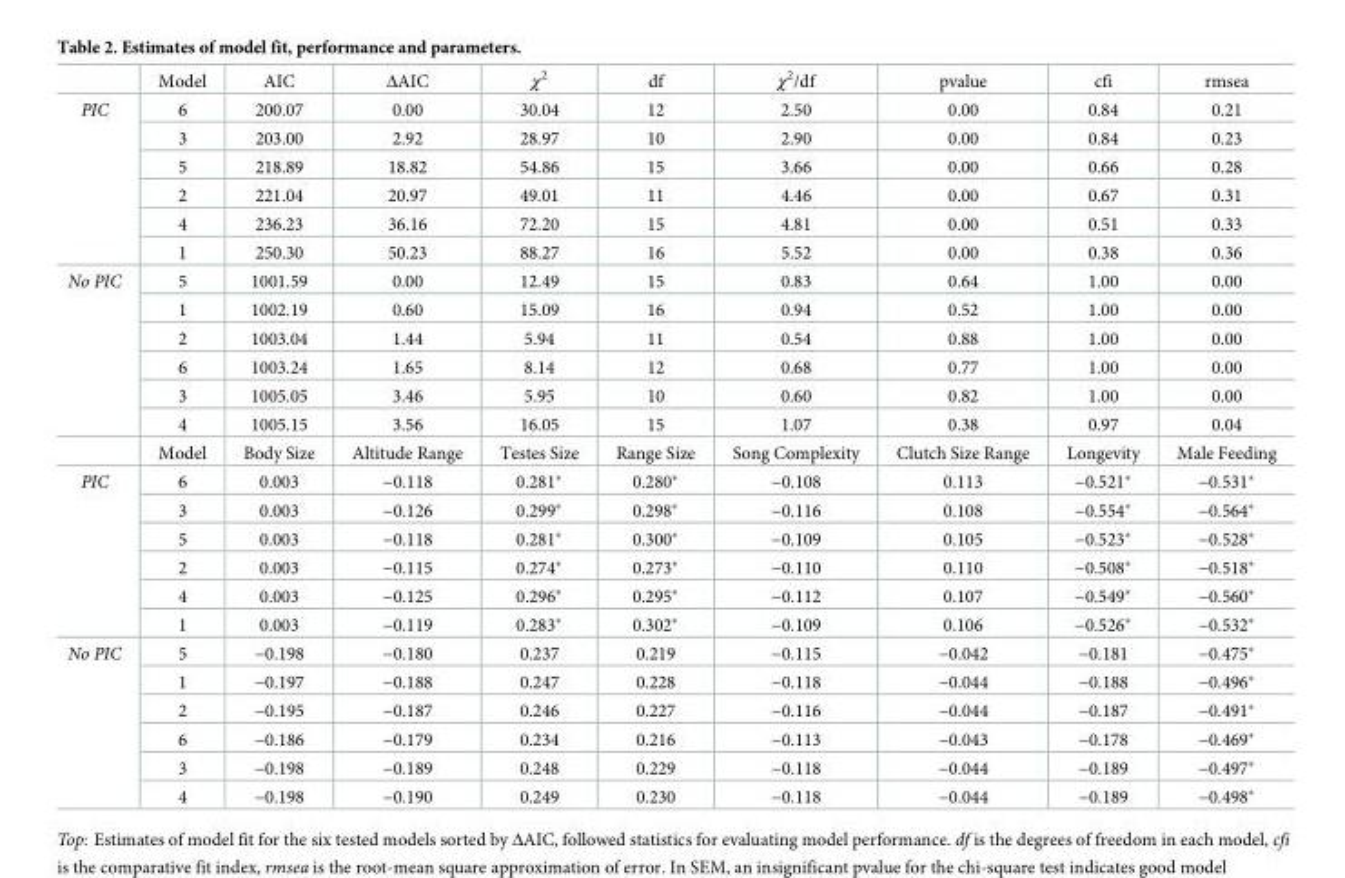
<table><thead><tr><td></td><td>Model</td><td>AIC</td><td>ΔAIC</td><td>χ<sup>2</sup></td><td>df</td><td>χ<sup>2</sup>/df</td><td>pvalue</td><td>cfi</td><td>rmsea</td></tr></thead><tbody><tr><td rowspan="6">PIC</td><td>6</td><td>200.07</td><td>0.00</td><td>30.04</td><td>12</td><td>2.50</td><td>0.00</td><td>0.84</td><td>0.21</td></tr><tr><td>3</td><td>203.00</td><td>2.92</td><td>28.97</td><td>10</td><td>2.90</td><td>0.00</td><td>0.84</td><td>0.23</td></tr><tr><td>5</td><td>218.89</td><td>18.82</td><td>54.86</td><td>15</td><td>3.66</td><td>0.00</td><td>0.66</td><td>0.28</td></tr><tr><td>2</td><td>221.04</td><td>20.97</td><td>49.01</td><td>11</td><td>4.46</td><td>0.00</td><td>0.67</td><td>0.31</td></tr><tr><td>4</td><td>236.23</td><td>36.16</td><td>72.20</td><td>15</td><td>4.81</td><td>0.00</td><td>0.51</td><td>0.33</td></tr><tr><td>1</td><td>250.30</td><td>50.23</td><td>88.27</td><td>16</td><td>5.52</td><td>0.00</td><td>0.38</td><td>0.36</td></tr><tr><td rowspan="7">No PIC</td><td>5</td><td>1001.59</td><td>0.00</td><td>12.49</td><td>15</td><td>0.83</td><td>0.64</td><td>1.00</td><td>0.00</td></tr><tr><td>1</td><td>1002.19</td><td>0.60</td><td>15.09</td><td>16</td><td>0.94</td><td>0.52</td><td>1.00</td><td>0.00</td></tr><tr><td>2</td><td>1003.04</td><td>1.44</td><td>5.94</td><td>11</td><td>0.54</td><td>0.88</td><td>1.00</td><td>0.00</td></tr><tr><td>6</td><td>1003.24</td><td>1.65</td><td>8.14</td><td>12</td><td>0.68</td><td>0.77</td><td>1.00</td><td>0.00</td></tr><tr><td>3</td><td>1005.05</td><td>3.46</td><td>5.95</td><td>10</td><td>0.60</td><td>0.82</td><td>1.00</td><td>0.00</td></tr><tr><td>4</td><td>1005.15</td><td>3.56</td><td>16.05</td><td>15</td><td>1.07</td><td>0.38</td><td>0.97</td><td>0.04</td></tr><tr><td>Model</td><td>Body Size</td><td>Altitude Range</td><td>Testes Size</td><td>Range Size</td><td>Song Complexity</td><td>Clutch Size Range</td><td>Longevity</td><td>Male Feeding</td></tr><tr><td rowspan="6">PIC</td><td>6</td><td>0.003</td><td>−0.118</td><td>0.281*</td><td>0.280*</td><td>−0.108</td><td>0.113</td><td>−0.521*</td><td>−0.531*</td></tr><tr><td>3</td><td>0.003</td><td>−0.126</td><td>0.299*</td><td>0.298*</td><td>−0.116</td><td>0.108</td><td>−0.554*</td><td>−0.564*</td></tr><tr><td>5</td><td>0.003</td><td>−0.118</td><td>0.281*</td><td>0.300*</td><td>−0.109</td><td>0.105</td><td>−0.523*</td><td>−0.528*</td></tr><tr><td>2</td><td>0.003</td><td>−0.115</td><td>0.274*</td><td>0.273*</td><td>−0.110</td><td>0.110</td><td>−0.508*</td><td>−0.518*</td></tr><tr><td>4</td><td>0.003</td><td>−0.125</td><td>0.296*</td><td>0.295*</td><td>−0.112</td><td>0.107</td><td>−0.549*</td><td>−0.560*</td></tr><tr><td>1</td><td>0.003</td><td>−0.119</td><td>0.283*</td><td>0.302*</td><td>−0.109</td><td>0.106</td><td>−0.526*</td><td>−0.532*</td></tr><tr><td rowspan="6">No PIC</td><td>5</td><td>−0.198</td><td>−0.180</td><td>0.237</td><td>0.219</td><td>−0.115</td><td>−0.042</td><td>−0.181</td><td>−0.475*</td></tr><tr><td>1</td><td>−0.197</td><td>−0.188</td><td>0.247</td><td>0.228</td><td>−0.118</td><td>−0.044</td><td>−0.188</td><td>−0.496*</td></tr><tr><td>2</td><td>−0.195</td><td>−0.187</td><td>0.246</td><td>0.227</td><td>−0.116</td><td>−0.044</td><td>−0.187</td><td>−0.491*</td></tr><tr><td>6</td><td>−0.186</td><td>−0.179</td><td>0.234</td><td>0.216</td><td>−0.113</td><td>−0.043</td><td>−0.178</td><td>−0.469*</td></tr><tr><td>3</td><td>−0.198</td><td>−0.189</td><td>0.248</td><td>0.229</td><td>−0.118</td><td>−0.044</td><td>−0.189</td><td>−0.497*</td></tr><tr><td>4</td><td>−0.198</td><td>−0.190</td><td>0.249</td><td>0.230</td><td>−0.118</td><td>−0.044</td><td>−0.189</td><td>−0.498*</td></tr></tbody></table>